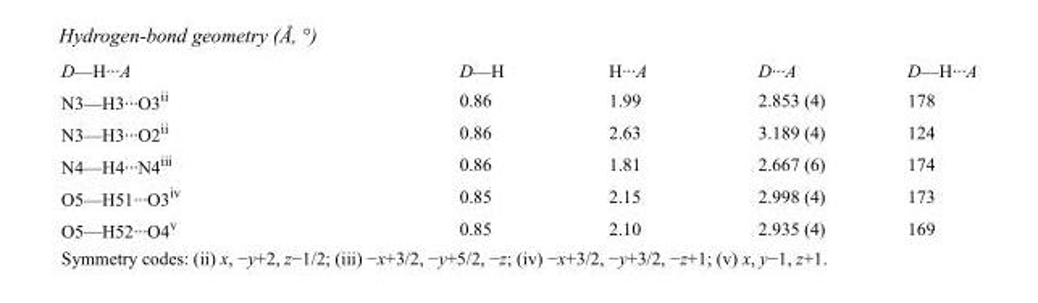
<table><tbody><tr><td>D—H···A</td><td>D—H</td><td>H···A</td><td>D···A</td><td>D—H···A</td></tr><tr><td>N3—H3···O3<sup>ii</sup></td><td>0.86</td><td>1.99</td><td>2.853 (4)</td><td>178</td></tr><tr><td>N3—H3···O2<sup>ii</sup></td><td>0.86</td><td>2.63</td><td>3.189 (4)</td><td>124</td></tr><tr><td>N4—H4···N4<sup>iii</sup></td><td>0.86</td><td>1.81</td><td>2.667 (6)</td><td>174</td></tr><tr><td>O5—H51···O3<sup>iv</sup></td><td>0.85</td><td>2.15</td><td>2.998 (4)</td><td>173</td></tr><tr><td>O5—H52···O4<sup>v</sup></td><td>0.85</td><td>2.10</td><td>2.935 (4)</td><td>169</td></tr></tbody></table>